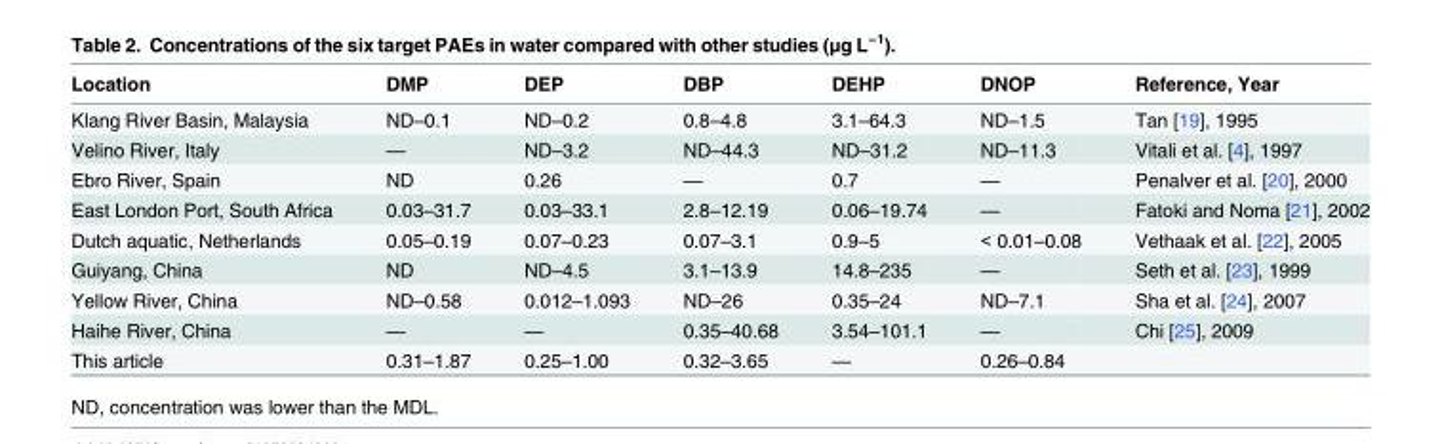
<table><thead><tr><td>Location</td><td>DMP</td><td>DEP</td><td>DBP</td><td>DEHP</td><td>DNOP</td><td>Reference, Year</td></tr></thead><tbody><tr><td>Klang River Basin, Malaysia</td><td>ND–0.1</td><td>ND–0.2</td><td>0.8–4.8</td><td>3.1–64.3</td><td>ND–1.5</td><td>Tan [19], 1995</td></tr><tr><td>Velino River, Italy</td><td>—</td><td>ND–3.2</td><td>ND–44.3</td><td>ND–31.2</td><td>ND–11.3</td><td>Vitali et al. [4], 1997</td></tr><tr><td>Ebro River, Spain</td><td>ND</td><td>0.26</td><td>—</td><td>0.7</td><td>—</td><td>Penalver et al. [20], 2000</td></tr><tr><td>East London Port, South Africa</td><td>0.03–31.7</td><td>0.03–33.1</td><td>2.8–12.19</td><td>0.06–19.74</td><td>—</td><td>Fatoki and Noma [21], 2002</td></tr><tr><td>Dutch aquatic, Netherlands</td><td>0.05–0.19</td><td>0.07–0.23</td><td>0.07–3.1</td><td>0.9–5</td><td>&lt; 0.01–0.08</td><td>Vethaak et al. [22], 2005</td></tr><tr><td>Guiyang, China</td><td>ND</td><td>ND–4.5</td><td>3.1–13.9</td><td>14.8–235</td><td>—</td><td>Seth et al. [23], 1999</td></tr><tr><td>Yellow River, China</td><td>ND–0.58</td><td>0.012–1.093</td><td>ND–26</td><td>0.35–24</td><td>ND–7.1</td><td>Sha et al. [24], 2007</td></tr><tr><td>Haihe River, China</td><td>—</td><td>—</td><td>0.35–40.68</td><td>3.54–101.1</td><td>—</td><td>Chi [25], 2009</td></tr><tr><td>This article</td><td>0.31–1.87</td><td>0.25–1.00</td><td>0.32–3.65</td><td>—</td><td>0.26–0.84</td><td></td></tr></tbody></table>